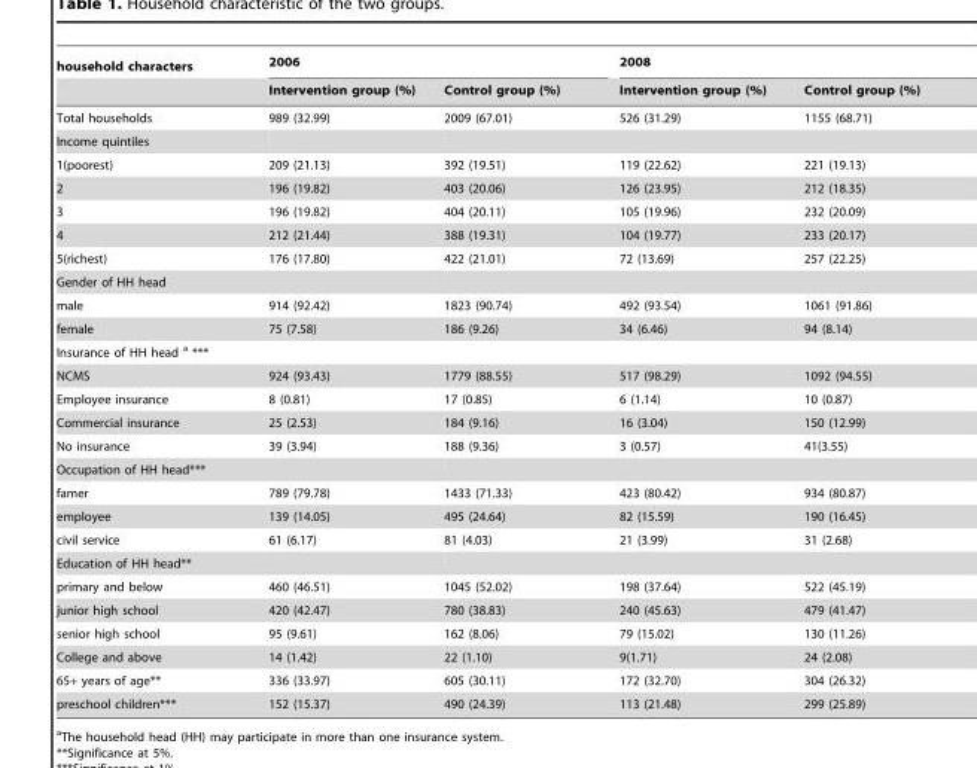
<table><thead><tr><td rowspan="2">household characters</td><td colspan="2">2006</td><td colspan="2">2008</td></tr><tr><td>Intervention group (%)</td><td>Control group (%)</td><td>Intervention group (%)</td><td>Control group (%)</td></tr></thead><tbody><tr><td>Total households</td><td>989 (32.99)</td><td>2009 (67.01)</td><td>526 (31.29)</td><td>1155 (68.71)</td></tr><tr><td colspan="5">Income quintiles</td></tr><tr><td>1(poorest)</td><td>209 (21.13)</td><td>392 (19.51)</td><td>119 (22.62)</td><td>221 (19.13)</td></tr><tr><td>2</td><td>196 (19.82)</td><td>403 (20.06)</td><td>126 (23.95)</td><td>212 (18.35)</td></tr><tr><td>3</td><td>196 (19.82)</td><td>404 (20.11)</td><td>105 (19.96)</td><td>232 (20.09)</td></tr><tr><td>4</td><td>212 (21.44)</td><td>388 (19.31)</td><td>104 (19.77)</td><td>233 (20.17)</td></tr><tr><td>5(richest)</td><td>176 (17.80)</td><td>422 (21.01)</td><td>72 (13.69)</td><td>257 (22.25)</td></tr><tr><td colspan="5">Gender of HH head</td></tr><tr><td>male</td><td>914 (92.42)</td><td>1823 (90.74)</td><td>492 (93.54)</td><td>1061 (91.86)</td></tr><tr><td>female</td><td>75 (7.58)</td><td>186 (9.26)</td><td>34 (6.46)</td><td>94 (8.14)</td></tr><tr><td colspan="5">Insurance of HH head a ***</td></tr><tr><td>NCMS</td><td>924 (93.43)</td><td>1779 (88.55)</td><td>517 (98.29)</td><td>1092 (94.55)</td></tr><tr><td>Employee insurance</td><td>8 (0.81)</td><td>17 (0.85)</td><td>6 (1.14)</td><td>10 (0.87)</td></tr><tr><td>Commercial insurance</td><td>25 (2.53)</td><td>184 (9.16)</td><td>16 (3.04)</td><td>150 (12.99)</td></tr><tr><td>No insurance</td><td>39 (3.94)</td><td>188 (9.36)</td><td>3 (0.57)</td><td>41(3.55)</td></tr><tr><td colspan="5">Occupation of HH head***</td></tr><tr><td>famer</td><td>789 (79.78)</td><td>1433 (71.33)</td><td>423 (80.42)</td><td>934 (80.87)</td></tr><tr><td>employee</td><td>139 (14.05)</td><td>495 (24.64)</td><td>82 (15.59)</td><td>190 (16.45)</td></tr><tr><td>civil service</td><td>61 (6.17)</td><td>81 (4.03)</td><td>21 (3.99)</td><td>31 (2.68)</td></tr><tr><td colspan="5">Education of HH head**</td></tr><tr><td>primary and below</td><td>460 (46.51)</td><td>1045 (52.02)</td><td>198 (37.64)</td><td>522 (45.19)</td></tr><tr><td>junior high school</td><td>420 (42.47)</td><td>780 (38.83)</td><td>240 (45.63)</td><td>479 (41.47)</td></tr><tr><td>senior high school</td><td>95 (9.61)</td><td>162 (8.06)</td><td>79 (15.02)</td><td>130 (11.26)</td></tr><tr><td>College and above</td><td>14 (1.42)</td><td>22 (1.10)</td><td>9(1.71)</td><td>24 (2.08)</td></tr><tr><td>65+ years of age**</td><td>336 (33.97)</td><td>605 (30.11)</td><td>172 (32.70)</td><td>304 (26.32)</td></tr><tr><td>preschool children***</td><td>152 (15.37)</td><td>490 (24.39)</td><td>113 (21.48)</td><td>299 (25.89)</td></tr></tbody></table>